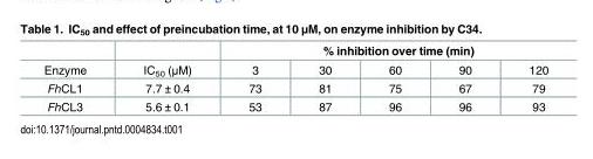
<table><thead><tr><td rowspan="2">Enzyme</td><td rowspan="2">IC<sub>50</sub> (μM)</td><td colspan="5">% inhibition over time (min)</td></tr><tr><td>3</td><td>30</td><td>60</td><td>90</td><td>120</td></tr></thead><tbody><tr><td>FhCL1</td><td>7.7 ± 0.4</td><td>73</td><td>81</td><td>75</td><td>67</td><td>79</td></tr><tr><td>FhCL3</td><td>5.6 ± 0.1</td><td>53</td><td>87</td><td>96</td><td>96</td><td>93</td></tr></tbody></table>